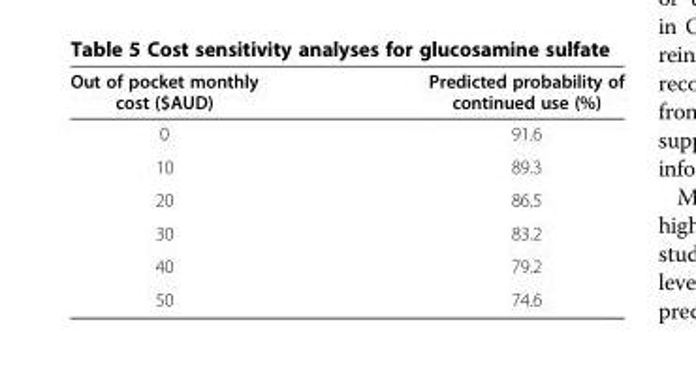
<table><thead><tr><td>Out of pocket monthly cost ($AUD)</td><td>Predicted probability of continued use (%)</td></tr></thead><tbody><tr><td>0</td><td>91.6</td></tr><tr><td>10</td><td>89.3</td></tr><tr><td>20</td><td>86.5</td></tr><tr><td>30</td><td>83.2</td></tr><tr><td>40</td><td>79.2</td></tr><tr><td>50</td><td>74.6</td></tr></tbody></table>